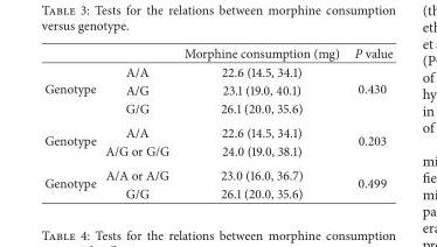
<table><thead><tr><td></td><td></td><td>Morphine consumption (mg)</td><td>P value</td></tr></thead><tbody><tr><td rowspan="3">Genotype</td><td>A/A</td><td>22.6 (14.5, 34.1)</td><td rowspan="3">0.430</td></tr><tr><td>A/G</td><td>23.1 (19.0, 40.1)</td></tr><tr><td>G/G</td><td>26.1 (20.0, 35.6)</td></tr><tr><td rowspan="2">Genotype</td><td>A/A</td><td>22.6 (14.5, 34.1)</td><td rowspan="2">0.203</td></tr><tr><td>A/G or G/G</td><td>24.0 (19.0, 38.1)</td></tr><tr><td rowspan="2">Genotype</td><td>A/A or A/G</td><td>23.0 (16.0, 36.7)</td><td rowspan="2">0.499</td></tr><tr><td>G/G</td><td>26.1 (20.0, 35.6)</td></tr></tbody></table>